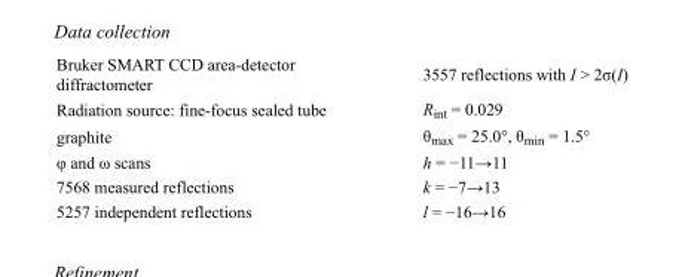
<table><tbody><tr><td>Bruker SMART CCD area-detector diffractometer</td><td>3557 reflections with I &gt; 2σ(I)</td></tr><tr><td>Radiation source: fine-focus sealed tube</td><td>R<sub>int</sub> = 0.029</td></tr><tr><td>graphite</td><td>θ<sub>max</sub> = 25.0°, θ<sub>min</sub> = 1.5°</td></tr><tr><td>φ and ω scans</td><td>h = −11→11</td></tr><tr><td>7568 measured reflections</td><td>k = −7→13</td></tr><tr><td>5257 independent reflections</td><td>l = −16→16</td></tr></tbody></table>